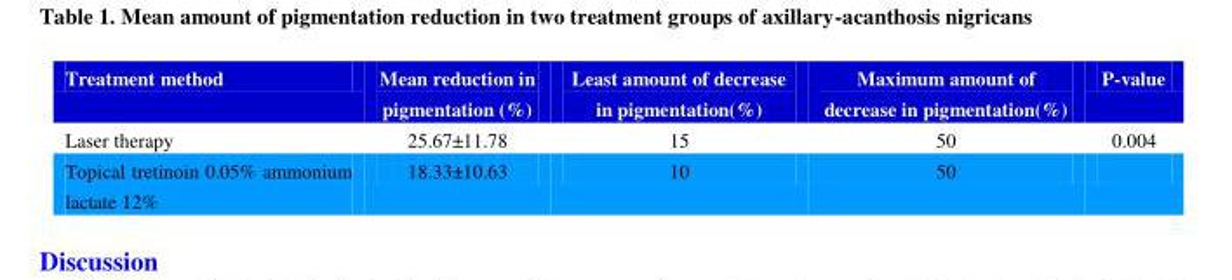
<table><thead><tr><td>Treatment method</td><td>Mean reduction in pigmentation (%)</td><td>Least amount of decrease in pigmentation(%)</td><td>Maximum amount of decrease in pigmentation(%)</td><td>P-value</td></tr></thead><tbody><tr><td>Laser therapy</td><td>25.67±11.78</td><td>15</td><td>50</td><td>0.004</td></tr><tr><td>Topical tretinoin 0.05% ammonium lactate 12%</td><td>18.33±10.63</td><td>10</td><td>50</td><td></td></tr></tbody></table>